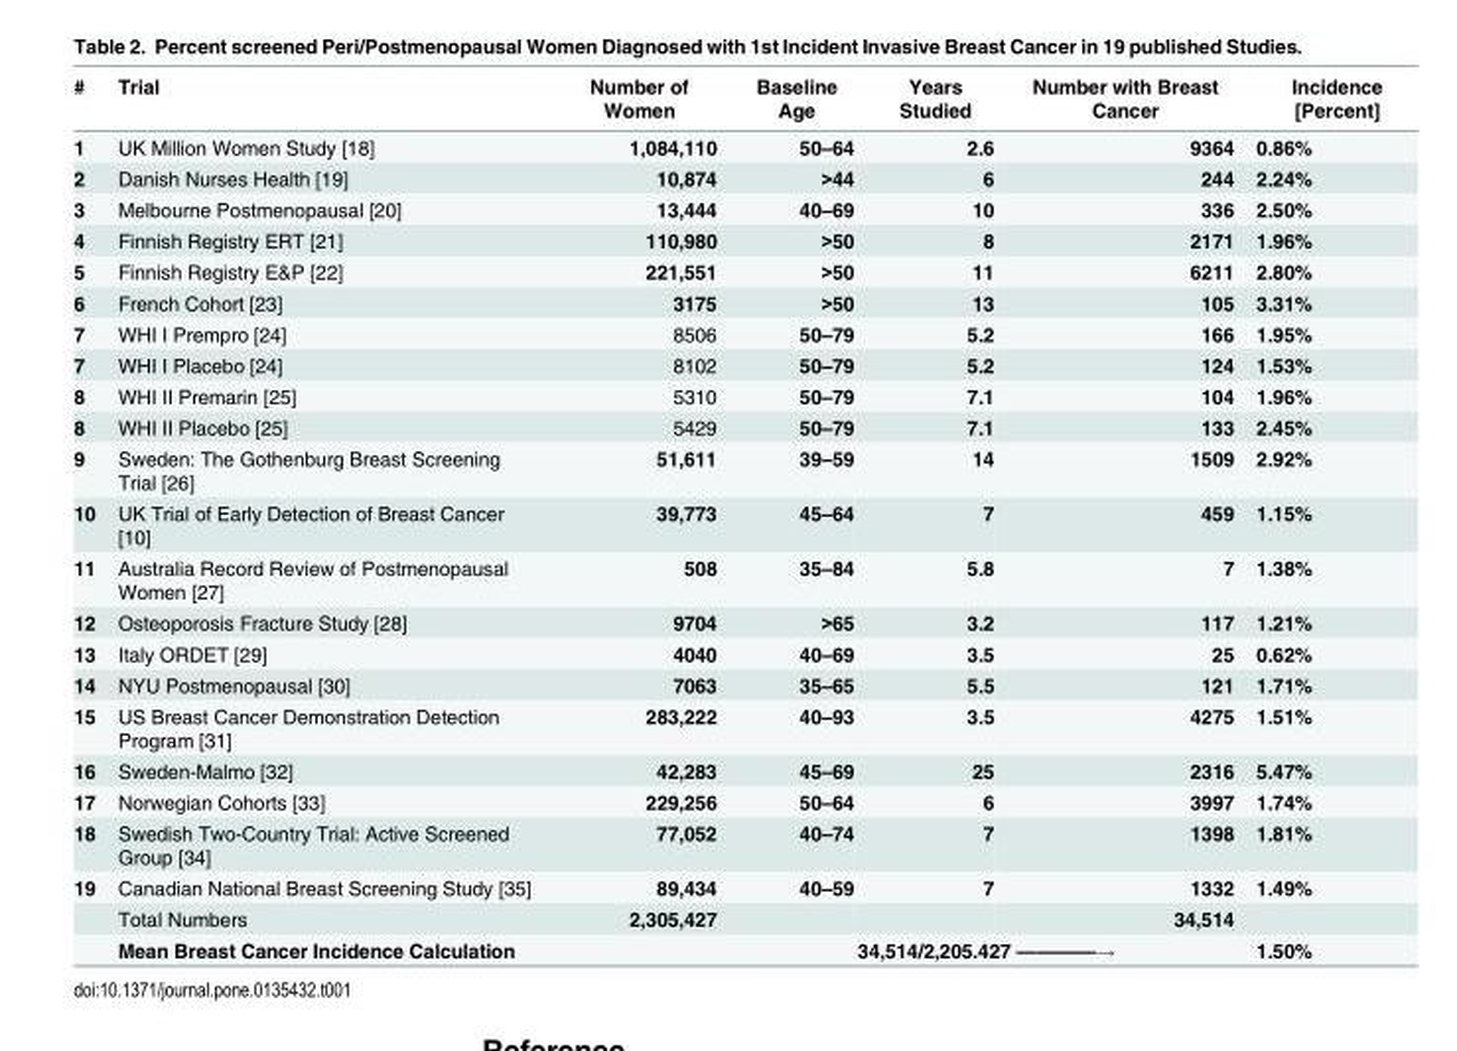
<table><thead><tr><td>#</td><td>Trial</td><td>Number of Women</td><td>Baseline Age</td><td>Years Studied</td><td>Number with Breast Cancer</td><td>Incidence [Percent]</td></tr></thead><tbody><tr><td>1</td><td>UK Million Women Study [18]</td><td>1,084,110</td><td>50–64</td><td>2.6</td><td>9364</td><td>0.86%</td></tr><tr><td>2</td><td>Danish Nurses Health [19]</td><td>10,874</td><td>&gt;44</td><td>6</td><td>244</td><td>2.24%</td></tr><tr><td>3</td><td>Melbourne Postmenopausal [20]</td><td>13,444</td><td>40–69</td><td>10</td><td>336</td><td>2.50%</td></tr><tr><td>4</td><td>Finnish Registry ERT [21]</td><td>110,980</td><td>&gt;50</td><td>8</td><td>2171</td><td>1.96%</td></tr><tr><td>5</td><td>Finnish Registry E&amp;P [22]</td><td>221,551</td><td>&gt;50</td><td>11</td><td>6211</td><td>2.80%</td></tr><tr><td>6</td><td>French Cohort [23]</td><td>3175</td><td>&gt;50</td><td>13</td><td>105</td><td>3.31%</td></tr><tr><td>7</td><td>WHI I Prempro [24]</td><td>8506</td><td>50–79</td><td>5.2</td><td>166</td><td>1.95%</td></tr><tr><td>7</td><td>WHI I Placebo [24]</td><td>8102</td><td>50–79</td><td>5.2</td><td>124</td><td>1.53%</td></tr><tr><td>8</td><td>WHI II Premarin [25]</td><td>5310</td><td>50–79</td><td>7.1</td><td>104</td><td>1.96%</td></tr><tr><td>8</td><td>WHI II Placebo [25]</td><td>5429</td><td>50–79</td><td>7.1</td><td>133</td><td>2.45%</td></tr><tr><td>9</td><td>Sweden: The Gothenburg Breast Screening Trial [26]</td><td>51,611</td><td>39–59</td><td>14</td><td>1509</td><td>2.92%</td></tr><tr><td>10</td><td>UK Trial of Early Detection of Breast Cancer [10]</td><td>39,773</td><td>45–64</td><td>7</td><td>459</td><td>1.15%</td></tr><tr><td>11</td><td>Australia Record Review of Postmenopausal Women [27]</td><td>508</td><td>35–84</td><td>5.8</td><td>7</td><td>1.38%</td></tr><tr><td>12</td><td>Osteoporosis Fracture Study [28]</td><td>9704</td><td>&gt;65</td><td>3.2</td><td>117</td><td>1.21%</td></tr><tr><td>13</td><td>Italy ORDET [29]</td><td>4040</td><td>40–69</td><td>3.5</td><td>25</td><td>0.62%</td></tr><tr><td>14</td><td>NYU Postmenopausal [30]</td><td>7063</td><td>35–65</td><td>5.5</td><td>121</td><td>1.71%</td></tr><tr><td>15</td><td>US Breast Cancer Demonstration Detection Program [31]</td><td>283,222</td><td>40–93</td><td>3.5</td><td>4275</td><td>1.51%</td></tr><tr><td>16</td><td>Sweden-Malmo [32]</td><td>42,283</td><td>45–69</td><td>25</td><td>2316</td><td>5.47%</td></tr><tr><td>17</td><td>Norwegian Cohorts [33]</td><td>229,256</td><td>50–64</td><td>6</td><td>3997</td><td>1.74%</td></tr><tr><td>18</td><td>Swedish Two-Country Trial: Active Screened Group [34]</td><td>77,052</td><td>40–74</td><td>7</td><td>1398</td><td>1.81%</td></tr><tr><td rowspan="3">19</td><td>Canadian National Breast Screening Study [35]</td><td>89,434</td><td>40–59</td><td>7</td><td>1332</td><td>1.49%</td></tr><tr><td>Total Numbers</td><td>2,305,427</td><td></td><td></td><td>34,514</td><td></td></tr><tr><td colspan="2">Mean Breast Cancer Incidence Calculation</td><td colspan="3">34,514/2,205.427 ————→</td><td>1.50%</td></tr></tbody></table>